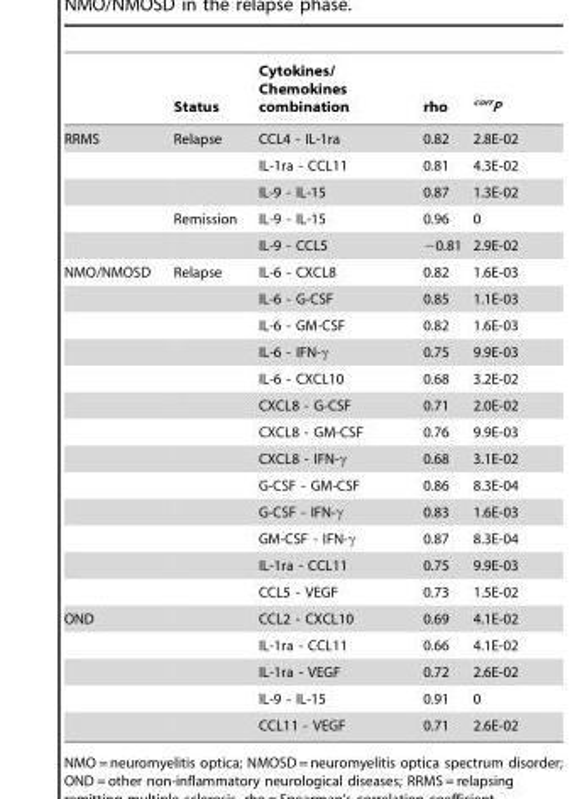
<table><thead><tr><td></td><td>Status</td><td>Cytokines/ Chemokines combination</td><td>rho</td><td><sup>corr</sup>P</td></tr></thead><tbody><tr><td rowspan="5">RRMS</td><td>Relapse</td><td>CCL4 - IL-1ra</td><td>0.82</td><td>2.8E-02</td></tr><tr><td></td><td>IL-1ra - CCL11</td><td>0.81</td><td>4.3E-02</td></tr><tr><td></td><td>IL-9 - IL-15</td><td>0.87</td><td>1.3E-02</td></tr><tr><td>Remission</td><td>IL-9 - IL-15</td><td>0.96</td><td>0</td></tr><tr><td></td><td>IL-9 - CCL5</td><td>−0.81</td><td>2.9E-02</td></tr><tr><td rowspan="13">NMO/NMOSD</td><td>Relapse</td><td>IL-6 - CXCL8</td><td>0.82</td><td>1.6E-03</td></tr><tr><td></td><td>IL-6 - G-CSF</td><td>0.85</td><td>1.1E-03</td></tr><tr><td></td><td>IL-6 - GM-CSF</td><td>0.82</td><td>1.6E-03</td></tr><tr><td></td><td>IL-6 - IFN-γ</td><td>0.75</td><td>9.9E-03</td></tr><tr><td></td><td>IL-6 - CXCL10</td><td>0.68</td><td>3.2E-02</td></tr><tr><td></td><td>CXCL8 - G-CSF</td><td>0.71</td><td>2.0E-02</td></tr><tr><td></td><td>CXCL8 - GM-CSF</td><td>0.76</td><td>9.9E-03</td></tr><tr><td></td><td>CXCL8 - IFN-γ</td><td>0.68</td><td>3.1E-02</td></tr><tr><td></td><td>G-CSF - GM-CSF</td><td>0.86</td><td>8.3E-04</td></tr><tr><td></td><td>G-CSF - IFN-γ</td><td>0.83</td><td>1.6E-03</td></tr><tr><td></td><td>GM-CSF - IFN-γ</td><td>0.87</td><td>8.3E-04</td></tr><tr><td></td><td>IL-1ra - CCL11</td><td>0.75</td><td>9.9E-03</td></tr><tr><td></td><td>CCL5 - VEGF</td><td>0.73</td><td>1.5E-02</td></tr><tr><td rowspan="5">OND</td><td></td><td>CCL2 - CXCL10</td><td>0.69</td><td>4.1E-02</td></tr><tr><td></td><td>IL-1ra - CCL11</td><td>0.66</td><td>4.1E-02</td></tr><tr><td></td><td>IL-1ra - VEGF</td><td>0.72</td><td>2.6E-02</td></tr><tr><td></td><td>IL-9 - IL-15</td><td>0.91</td><td>0</td></tr><tr><td></td><td>CCL11 - VEGF</td><td>0.71</td><td>2.6E-02</td></tr></tbody></table>